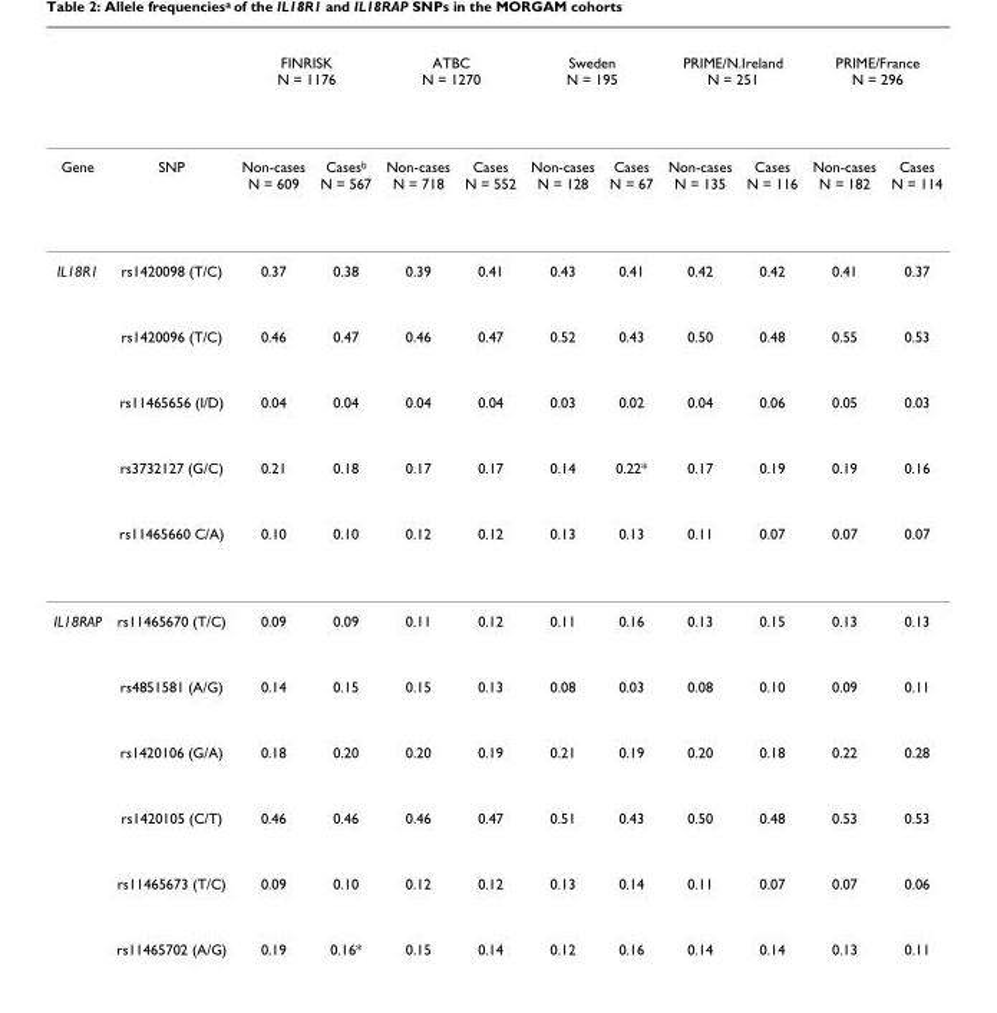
<table><thead><tr><td rowspan="2">Gene</td><td rowspan="2">SNP</td><td colspan="2">FINRISK N = 1176</td><td colspan="2">ATBC N = 1270</td><td colspan="2">Sweden N = 195</td><td colspan="2">PRIME/N.Ireland N = 251</td><td colspan="2">PRIME/France N = 296</td></tr><tr><td>Non-cases N = 609</td><td>Cases<sup>b</sup> N = 567</td><td>Non-cases N = 718</td><td>Cases N = 552</td><td>Non-cases N = 128</td><td>Cases N = 67</td><td>Non-cases N = 135</td><td>Cases N = 116</td><td>Non-cases N = 182</td><td>Cases N = 114</td></tr></thead><tbody><tr><td rowspan="5">IL18R1</td><td>rs1420098 (T/C)</td><td>0.37</td><td>0.38</td><td>0.39</td><td>0.41</td><td>0.43</td><td>0.41</td><td>0.42</td><td>0.42</td><td>0.41</td><td>0.37</td></tr><tr><td>rs1420096 (T/C)</td><td>0.46</td><td>0.47</td><td>0.46</td><td>0.47</td><td>0.52</td><td>0.43</td><td>0.50</td><td>0.48</td><td>0.55</td><td>0.53</td></tr><tr><td>rs11465656 (I/D)</td><td>0.04</td><td>0.04</td><td>0.04</td><td>0.04</td><td>0.03</td><td>0.02</td><td>0.04</td><td>0.06</td><td>0.05</td><td>0.03</td></tr><tr><td>rs3732127 (G/C)</td><td>0.21</td><td>0.18</td><td>0.17</td><td>0.17</td><td>0.14</td><td>0.22*</td><td>0.17</td><td>0.19</td><td>0.19</td><td>0.16</td></tr><tr><td>rs11465660 C/A)</td><td>0.10</td><td>0.10</td><td>0.12</td><td>0.12</td><td>0.13</td><td>0.13</td><td>0.11</td><td>0.07</td><td>0.07</td><td>0.07</td></tr><tr><td rowspan="6">IL18RAP</td><td>rs11465670 (T/C)</td><td>0.09</td><td>0.09</td><td>0.11</td><td>0.12</td><td>0.11</td><td>0.16</td><td>0.13</td><td>0.15</td><td>0.13</td><td>0.13</td></tr><tr><td>rs4851581 (A/G)</td><td>0.14</td><td>0.15</td><td>0.15</td><td>0.13</td><td>0.08</td><td>0.03</td><td>0.08</td><td>0.10</td><td>0.09</td><td>0.11</td></tr><tr><td>rs1420106 (G/A)</td><td>0.18</td><td>0.20</td><td>0.20</td><td>0.19</td><td>0.21</td><td>0.19</td><td>0.20</td><td>0.18</td><td>0.22</td><td>0.28</td></tr><tr><td>rs1420105 (C/T)</td><td>0.46</td><td>0.46</td><td>0.46</td><td>0.47</td><td>0.51</td><td>0.43</td><td>0.50</td><td>0.48</td><td>0.53</td><td>0.53</td></tr><tr><td>rs11465673 (T/C)</td><td>0.09</td><td>0.10</td><td>0.12</td><td>0.12</td><td>0.13</td><td>0.14</td><td>0.11</td><td>0.07</td><td>0.07</td><td>0.06</td></tr><tr><td>rs11465702 (A/G)</td><td>0.19</td><td>0.16*</td><td>0.15</td><td>0.14</td><td>0.12</td><td>0.16</td><td>0.14</td><td>0.14</td><td>0.13</td><td>0.11</td></tr></tbody></table>